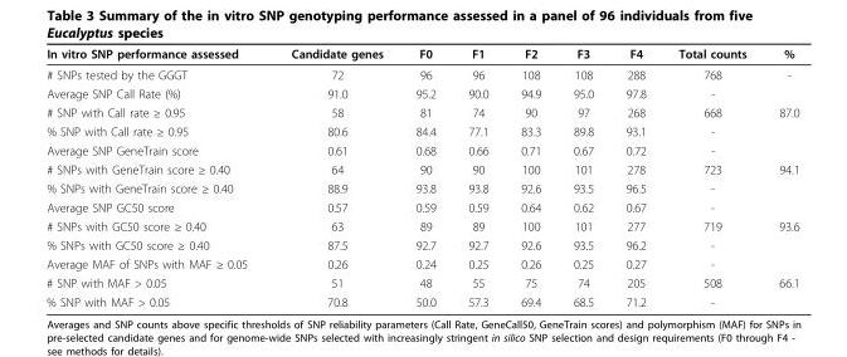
<table><thead><tr><td>In vitro SNP performance assessed</td><td>Candidate genes</td><td>F0</td><td>F1</td><td>F2</td><td>F3</td><td>F4</td><td>Total counts</td><td>%</td></tr></thead><tbody><tr><td># SNPs tested by the GGGT</td><td>72</td><td>96</td><td>96</td><td>108</td><td>108</td><td>288</td><td>768</td><td>-</td></tr><tr><td>Average SNP Call Rate (%)</td><td>91.0</td><td>95.2</td><td>90.0</td><td>94.9</td><td>95.0</td><td>97.8</td><td>-</td><td></td></tr><tr><td># SNP with Call rate ≥ 0.95</td><td>58</td><td>81</td><td>74</td><td>90</td><td>97</td><td>268</td><td>668</td><td>87.0</td></tr><tr><td>% SNP with Call rate ≥ 0.95</td><td>80.6</td><td>84.4</td><td>77.1</td><td>83.3</td><td>89.8</td><td>93.1</td><td>-</td><td></td></tr><tr><td>Average SNP GeneTrain score</td><td>0.61</td><td>0.68</td><td>0.66</td><td>0.71</td><td>0.67</td><td>0.72</td><td>-</td><td></td></tr><tr><td># SNPs with GeneTrain score ≥ 0.40</td><td>64</td><td>90</td><td>90</td><td>100</td><td>101</td><td>278</td><td>723</td><td>94.1</td></tr><tr><td>% SNPs with GeneTrain score ≥ 0.40</td><td>88.9</td><td>93.8</td><td>93.8</td><td>92.6</td><td>93.5</td><td>96.5</td><td>-</td><td></td></tr><tr><td>Average SNP GC50 score</td><td>0.57</td><td>0.59</td><td>0.59</td><td>0.64</td><td>0.62</td><td>0.67</td><td>-</td><td></td></tr><tr><td># SNPs with GC50 score ≥ 0.40</td><td>63</td><td>89</td><td>89</td><td>100</td><td>101</td><td>277</td><td>719</td><td>93.6</td></tr><tr><td>% SNPs with GC50 score ≥ 0.40</td><td>87.5</td><td>92.7</td><td>92.7</td><td>92.6</td><td>93.5</td><td>96.2</td><td>-</td><td></td></tr><tr><td>Average MAF of SNPs with MAF ≥ 0.05</td><td>0.26</td><td>0.24</td><td>0.25</td><td>0.26</td><td>0.25</td><td>0.27</td><td>-</td><td></td></tr><tr><td># SNP with MAF &gt; 0.05</td><td>51</td><td>48</td><td>55</td><td>75</td><td>74</td><td>205</td><td>508</td><td>66.1</td></tr><tr><td>% SNP with MAF &gt; 0.05</td><td>70.8</td><td>50.0</td><td>57.3</td><td>69.4</td><td>68.5</td><td>71.2</td><td>-</td><td></td></tr></tbody></table>